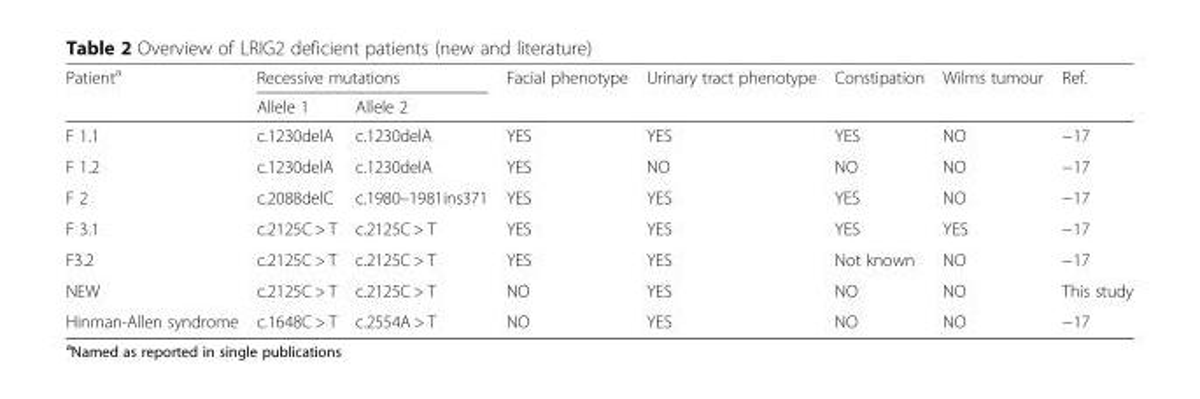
<table><thead><tr><td rowspan="2">Patient<sup>a</sup></td><td colspan="2">Recessive mutations</td><td rowspan="2">Facial phenotype</td><td rowspan="2">Urinary tract phenotype</td><td rowspan="2">Constipation</td><td rowspan="2">Wilms tumour</td><td rowspan="2">Ref.</td></tr><tr><td>Allele 1</td><td>Allele 2</td></tr></thead><tbody><tr><td>F 1.1</td><td>c.1230delA</td><td>c.1230delA</td><td>YES</td><td>YES</td><td>YES</td><td>NO</td><td>−17</td></tr><tr><td>F 1.2</td><td>c.1230delA</td><td>c.1230delA</td><td>YES</td><td>NO</td><td>NO</td><td>NO</td><td>−17</td></tr><tr><td>F 2</td><td>c.2088delC</td><td>c.1980–1981ins371</td><td>YES</td><td>YES</td><td>YES</td><td>NO</td><td>−17</td></tr><tr><td>F 3.1</td><td>c.2125C &gt; T</td><td>c.2125C &gt; T</td><td>YES</td><td>YES</td><td>YES</td><td>YES</td><td>−17</td></tr><tr><td>F3.2</td><td>c.2125C &gt; T</td><td>c.2125C &gt; T</td><td>YES</td><td>YES</td><td>Not known</td><td>NO</td><td>−17</td></tr><tr><td>NEW</td><td>c.2125C &gt; T</td><td>c.2125C &gt; T</td><td>NO</td><td>YES</td><td>NO</td><td>NO</td><td>This study</td></tr><tr><td>Hinman-Allen syndrome</td><td>c.1648C &gt; T</td><td>c.2554A &gt; T</td><td>NO</td><td>YES</td><td>NO</td><td>NO</td><td>−17</td></tr></tbody></table>